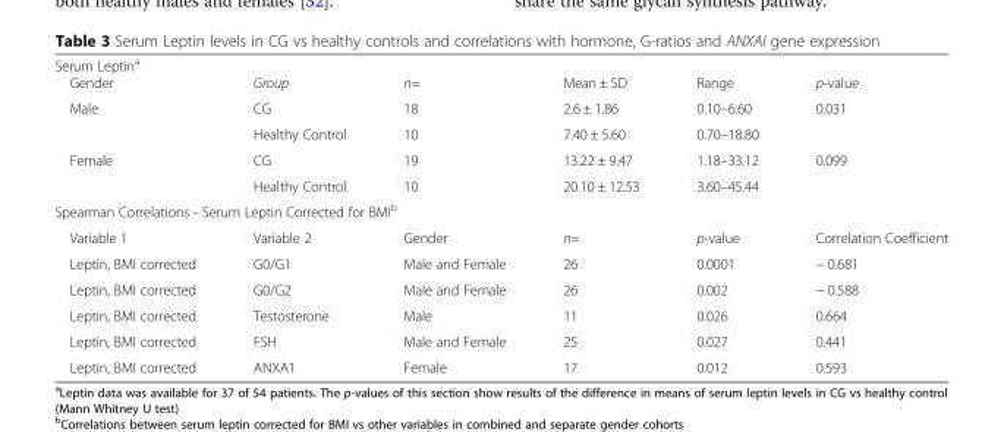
<table><thead><tr><td colspan="6">Serum Leptin<sup>a</sup></td></tr><tr><td>Gender</td><td>Group</td><td>n=</td><td>Mean ± SD</td><td>Range</td><td>p-value</td></tr></thead><tbody><tr><td rowspan="2">Male</td><td>CG</td><td>18</td><td>2.6 ± 1.86</td><td>0.10–6.60</td><td rowspan="2">0.031</td></tr><tr><td>Healthy Control</td><td>10</td><td>7.40 ± 5.60</td><td>0.70–18.80</td></tr><tr><td rowspan="2">Female</td><td>CG</td><td>19</td><td>13.22 ± 9.47</td><td>1.18–33.12</td><td rowspan="2">0.099</td></tr><tr><td>Healthy Control</td><td>10</td><td>20.10 ± 12.53</td><td>3.60–45.44</td></tr><tr><td colspan="6">Spearman Correlations - Serum Leptin Corrected for BMI<sup>b</sup></td></tr><tr><td>Variable 1</td><td>Variable 2</td><td>Gender</td><td>n=</td><td>p-value</td><td>Correlation Coefficient</td></tr><tr><td>Leptin, BMI corrected</td><td>G0/G1</td><td>Male and Female</td><td>26</td><td>0.0001</td><td>− 0.681</td></tr><tr><td>Leptin, BMI corrected</td><td>G0/G2</td><td>Male and Female</td><td>26</td><td>0.002</td><td>− 0.588</td></tr><tr><td>Leptin, BMI corrected</td><td>Testosterone</td><td>Male</td><td>11</td><td>0.026</td><td>0.664</td></tr><tr><td>Leptin, BMI corrected</td><td>FSH</td><td>Male and Female</td><td>25</td><td>0.027</td><td>0.441</td></tr><tr><td>Leptin, BMI corrected</td><td>ANXA1</td><td>Female</td><td>17</td><td>0.012</td><td>0.593</td></tr></tbody></table>